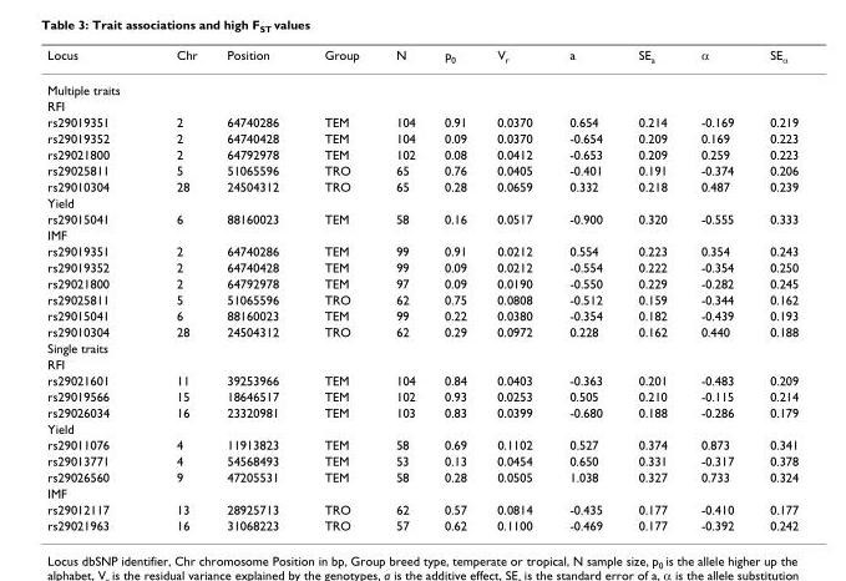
<table><thead><tr><td>Locus</td><td>Chr</td><td>Position</td><td>Group</td><td>N</td><td>p<sub>0</sub></td><td>V<sub>r</sub></td><td>a</td><td>SE<sub>a</sub></td><td>α</td><td>SE<sub>α</sub></td></tr></thead><tbody><tr><td colspan="11">Multiple traits</td></tr><tr><td colspan="11">RFI</td></tr><tr><td>rs29019351</td><td>2</td><td>64740286</td><td>TEM</td><td>104</td><td>0.91</td><td>0.0370</td><td>0.654</td><td>0.214</td><td>-0.169</td><td>0.219</td></tr><tr><td>rs29019352</td><td>2</td><td>64740428</td><td>TEM</td><td>104</td><td>0.09</td><td>0.0370</td><td>-0.654</td><td>0.209</td><td>0.169</td><td>0.223</td></tr><tr><td>rs29021800</td><td>2</td><td>64792978</td><td>TEM</td><td>102</td><td>0.08</td><td>0.0412</td><td>-0.653</td><td>0.209</td><td>0.259</td><td>0.223</td></tr><tr><td>rs29025811</td><td>5</td><td>51065596</td><td>TRO</td><td>65</td><td>0.76</td><td>0.0405</td><td>-0.401</td><td>0.191</td><td>-0.374</td><td>0.206</td></tr><tr><td>rs29010304</td><td>28</td><td>24504312</td><td>TRO</td><td>65</td><td>0.28</td><td>0.0659</td><td>0.332</td><td>0.218</td><td>0.487</td><td>0.239</td></tr><tr><td colspan="11">Yield</td></tr><tr><td>rs29015041</td><td>6</td><td>88160023</td><td>TEM</td><td>58</td><td>0.16</td><td>0.0517</td><td>-0.900</td><td>0.320</td><td>-0.555</td><td>0.333</td></tr><tr><td colspan="11">IMF</td></tr><tr><td>rs29019351</td><td>2</td><td>64740286</td><td>TEM</td><td>99</td><td>0.91</td><td>0.0212</td><td>0.554</td><td>0.223</td><td>0.354</td><td>0.243</td></tr><tr><td>rs29019352</td><td>2</td><td>64740428</td><td>TEM</td><td>99</td><td>0.09</td><td>0.0212</td><td>-0.554</td><td>0.222</td><td>-0.354</td><td>0.250</td></tr><tr><td>rs29021800</td><td>2</td><td>64792978</td><td>TEM</td><td>97</td><td>0.09</td><td>0.0190</td><td>-0.550</td><td>0.229</td><td>-0.282</td><td>0.245</td></tr><tr><td>rs29025811</td><td>5</td><td>51065596</td><td>TRO</td><td>62</td><td>0.75</td><td>0.0808</td><td>-0.512</td><td>0.159</td><td>-0.344</td><td>0.162</td></tr><tr><td>rs29015041</td><td>6</td><td>88160023</td><td>TEM</td><td>99</td><td>0.22</td><td>0.0380</td><td>-0.354</td><td>0.182</td><td>-0.439</td><td>0.193</td></tr><tr><td>rs29010304</td><td>28</td><td>24504312</td><td>TRO</td><td>62</td><td>0.29</td><td>0.0972</td><td>0.228</td><td>0.162</td><td>0.440</td><td>0.188</td></tr><tr><td colspan="11">Single traits</td></tr><tr><td colspan="11">RFI</td></tr><tr><td>rs29021601</td><td>11</td><td>39253966</td><td>TEM</td><td>104</td><td>0.84</td><td>0.0403</td><td>-0.363</td><td>0.201</td><td>-0.483</td><td>0.209</td></tr><tr><td>rs29019566</td><td>15</td><td>18646517</td><td>TEM</td><td>102</td><td>0.93</td><td>0.0253</td><td>0.505</td><td>0.210</td><td>-0.115</td><td>0.214</td></tr><tr><td>rs29026034</td><td>16</td><td>23320981</td><td>TEM</td><td>103</td><td>0.83</td><td>0.0399</td><td>-0.680</td><td>0.188</td><td>-0.286</td><td>0.179</td></tr><tr><td colspan="11">Yield</td></tr><tr><td>rs29011076</td><td>4</td><td>11913823</td><td>TEM</td><td>58</td><td>0.69</td><td>0.1102</td><td>0.527</td><td>0.374</td><td>0.873</td><td>0.341</td></tr><tr><td>rs29013771</td><td>4</td><td>54568493</td><td>TEM</td><td>53</td><td>0.13</td><td>0.0454</td><td>0.650</td><td>0.331</td><td>-0.317</td><td>0.378</td></tr><tr><td>rs29026560</td><td>9</td><td>47205531</td><td>TEM</td><td>58</td><td>0.28</td><td>0.0505</td><td>1.038</td><td>0.327</td><td>0.733</td><td>0.324</td></tr><tr><td colspan="11">IMF</td></tr><tr><td>rs29012117</td><td>13</td><td>28925713</td><td>TRO</td><td>62</td><td>0.57</td><td>0.0814</td><td>-0.435</td><td>0.177</td><td>-0.410</td><td>0.177</td></tr><tr><td>rs29021963</td><td>16</td><td>31068223</td><td>TRO</td><td>57</td><td>0.62</td><td>0.1100</td><td>-0.469</td><td>0.177</td><td>-0.392</td><td>0.242</td></tr></tbody></table>